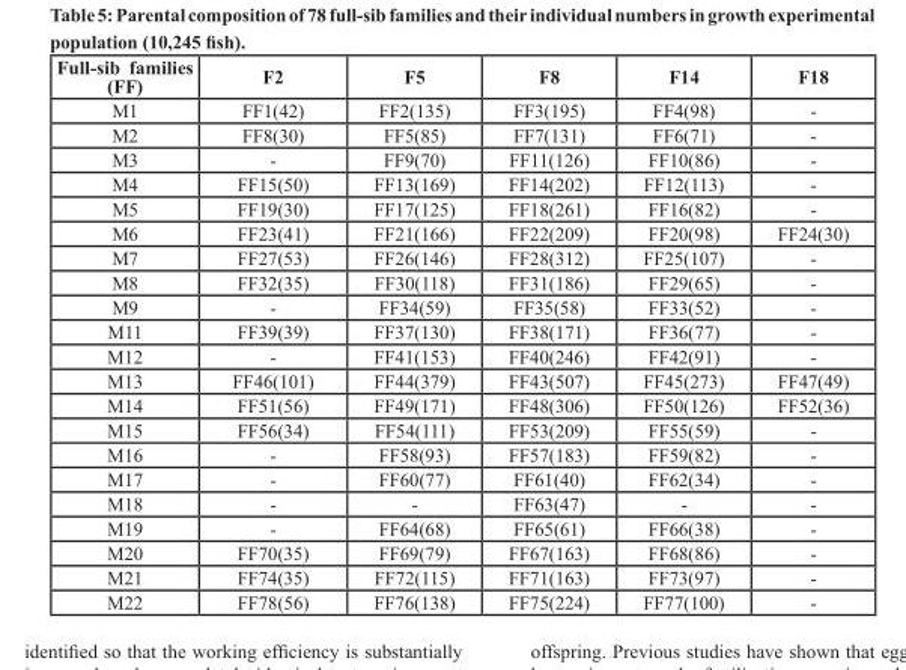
<table><thead><tr><td>Full-sib families (FF)</td><td>F2</td><td>F5</td><td>F8</td><td>F14</td><td>F18</td></tr></thead><tbody><tr><td>M1</td><td>FF1(42)</td><td>FF2(135)</td><td>FF3(195)</td><td>FF4(98)</td><td>-</td></tr><tr><td>M2</td><td>FF8(30)</td><td>FF5(85)</td><td>FF7(131)</td><td>FF6(71)</td><td>-</td></tr><tr><td>M3</td><td>-</td><td>FF9(70)</td><td>FF11(126)</td><td>FF10(86)</td><td>-</td></tr><tr><td>M4</td><td>FF15(50)</td><td>FF13(169)</td><td>FF14(202)</td><td>FF12(113)</td><td>-</td></tr><tr><td>M5</td><td>FF19(30)</td><td>FF17(125)</td><td>FF18(261)</td><td>FF16(82)</td><td>-</td></tr><tr><td>M6</td><td>FF23(41)</td><td>FF21(166)</td><td>FF22(209)</td><td>FF20(98)</td><td>FF24(30)</td></tr><tr><td>M7</td><td>FF27(53)</td><td>FF26(146)</td><td>FF28(312)</td><td>FF25(107)</td><td>-</td></tr><tr><td>M8</td><td>FF32(35)</td><td>FF30(118)</td><td>FF31(186)</td><td>FF29(65)</td><td>-</td></tr><tr><td>M9</td><td>-</td><td>FF34(59)</td><td>FF35(58)</td><td>FF33(52)</td><td>-</td></tr><tr><td>M11</td><td>FF39(39)</td><td>FF37(130)</td><td>FF38(171)</td><td>FF36(77)</td><td>-</td></tr><tr><td>M12</td><td>-</td><td>FF41(153)</td><td>FF40(246)</td><td>FF42(91)</td><td>-</td></tr><tr><td>M13</td><td>FF46(101)</td><td>FF44(379)</td><td>FF43(507)</td><td>FF45(273)</td><td>FF47(49)</td></tr><tr><td>M14</td><td>FF51(56)</td><td>FF49(171)</td><td>FF48(306)</td><td>FF50(126)</td><td>FF52(36)</td></tr><tr><td>M15</td><td>FF56(34)</td><td>FF54(111)</td><td>FF53(209)</td><td>FF55(59)</td><td>-</td></tr><tr><td>M16</td><td>-</td><td>FF58(93)</td><td>FF57(183)</td><td>FF59(82)</td><td>-</td></tr><tr><td>M17</td><td>-</td><td>FF60(77)</td><td>FF61(40)</td><td>FF62(34)</td><td>-</td></tr><tr><td>M18</td><td>-</td><td>-</td><td>FF63(47)</td><td>-</td><td>-</td></tr><tr><td>M19</td><td>-</td><td>FF64(68)</td><td>FF65(61)</td><td>FF66(38)</td><td>-</td></tr><tr><td>M20</td><td>FF70(35)</td><td>FF69(79)</td><td>FF67(163)</td><td>FF68(86)</td><td>-</td></tr><tr><td>M21</td><td>FF74(35)</td><td>FF72(115)</td><td>FF71(163)</td><td>FF73(97)</td><td>-</td></tr><tr><td>M22</td><td>FF78(56)</td><td>FF76(138)</td><td>FF75(224)</td><td>FF77(100)</td><td>-</td></tr></tbody></table>